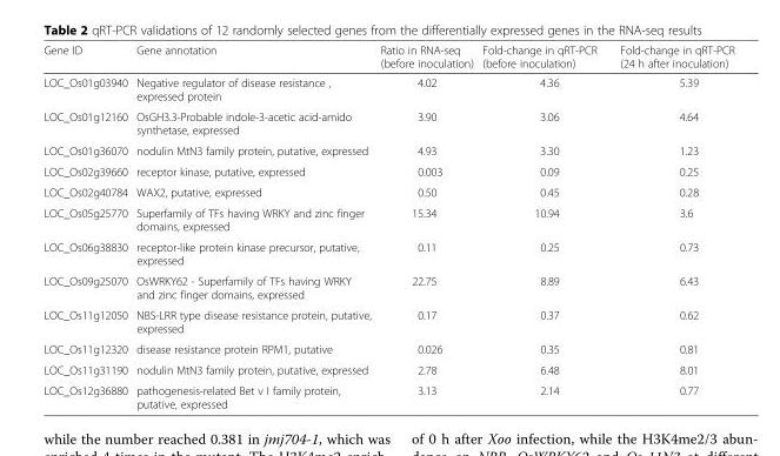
<table><thead><tr><td>Gene ID</td><td>Gene annotation</td><td>Ratio in RNA-seq (before inoculation)</td><td>Fold-change in qRT-PCR (before inoculation)</td><td>Fold-change in qRT-PCR (24 h after inoculation)</td></tr></thead><tbody><tr><td>LOC_Os01g03940</td><td>Negative regulator of disease resistance , expressed protein</td><td>4.02</td><td>4.36</td><td>5.39</td></tr><tr><td>LOC_Os01g12160</td><td>OsGH3.3-Probable indole-3-acetic acid-amido synthetase, expressed</td><td>3.90</td><td>3.06</td><td>4.64</td></tr><tr><td>LOC_Os01g36070</td><td>nodulin MtN3 family protein, putative, expressed</td><td>4.93</td><td>3.30</td><td>1.23</td></tr><tr><td>LOC_Os02g39660</td><td>receptor kinase, putative, expressed</td><td>0.003</td><td>0.09</td><td>0.25</td></tr><tr><td>LOC_Os02g40784</td><td>WAX2, putative, expressed</td><td>0.50</td><td>0.45</td><td>0.28</td></tr><tr><td>LOC_Os05g25770</td><td>Superfamily of TFs having WRKY and zinc finger domains, expressed</td><td>15.34</td><td>10.94</td><td>3.6</td></tr><tr><td>LOC_Os06g38830</td><td>receptor-like protein kinase precursor, putative, expressed</td><td>0.11</td><td>0.25</td><td>0.73</td></tr><tr><td>LOC_Os09g25070</td><td>OsWRKY62 - Superfamily of TFs having WRKY and zinc finger domains, expressed</td><td>22.75</td><td>8.89</td><td>6.43</td></tr><tr><td>LOC_Os11g12050</td><td>NBS-LRR type disease resistance protein, putative, expressed</td><td>0.17</td><td>0.37</td><td>0.62</td></tr><tr><td>LOC_Os11g12320</td><td>disease resistance protein RPM1, putative</td><td>0.026</td><td>0.35</td><td>0.81</td></tr><tr><td>LOC_Os11g31190</td><td>nodulin MtN3 family protein, putative, expressed</td><td>2.78</td><td>6.48</td><td>8.01</td></tr><tr><td>LOC_Os12g36880</td><td>pathogenesis-related Bet v I family protein, putative, expressed</td><td>3.13</td><td>2.14</td><td>0.77</td></tr></tbody></table>